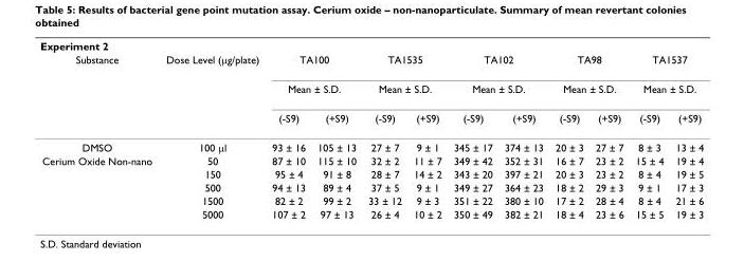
<table><thead><tr><td colspan="12">Experiment 2</td></tr><tr><td rowspan="3">Substance</td><td rowspan="3">Dose Level (μg/plate)</td><td rowspan="2" colspan="2">TA100 Mean ± S.D.</td><td rowspan="2" colspan="2">TA1535 Mean ± S.D.</td><td rowspan="2" colspan="2">TA102 Mean ± S.D.</td><td rowspan="2" colspan="2">TA98 Mean ± S.D.</td><td rowspan="2" colspan="2">TA1537 Mean ± S.D.</td></tr><tr></tr><tr><td>(-S9)</td><td>(+S9)</td><td>(-S9)</td><td>(+S9)</td><td>(-S9)</td><td>(+S9)</td><td>(-S9)</td><td>(+S9)</td><td>(-S9)</td><td>(+S9)</td></tr></thead><tbody><tr><td>DMSO</td><td>100 μl</td><td>93 ± 16</td><td>105 ± 13</td><td>27 ± 7</td><td>9 ± 1</td><td>345 ± 17</td><td>374 ± 13</td><td>20 ± 3</td><td>27 ± 7</td><td>8 ± 3</td><td>13 ± 4</td></tr><tr><td rowspan="5">Cerium Oxide Non-nano</td><td>50</td><td>87 ± 10</td><td>115 ± 10</td><td>32 ± 2</td><td>11 ± 7</td><td>349 ± 42</td><td>352 ± 31</td><td>16 ± 7</td><td>23 ± 2</td><td>15 ± 4</td><td>19 ± 4</td></tr><tr><td>150</td><td>95 ± 4</td><td>91 ± 8</td><td>28 ± 7</td><td>14 ± 2</td><td>343 ± 20</td><td>397 ± 21</td><td>20 ± 3</td><td>23 ± 2</td><td>8 ± 4</td><td>19 ± 5</td></tr><tr><td>500</td><td>94 ± 13</td><td>89 ± 4</td><td>37 ± 5</td><td>9 ± 1</td><td>349 ± 27</td><td>364 ± 23</td><td>18 ± 2</td><td>29 ± 3</td><td>9 ± 1</td><td>17 ± 3</td></tr><tr><td>1500</td><td>82 ± 2</td><td>99 ± 2</td><td>33 ± 12</td><td>9 ± 3</td><td>351 ± 22</td><td>380 ± 10</td><td>17 ± 2</td><td>28 ± 4</td><td>8 ± 4</td><td>21 ± 6</td></tr><tr><td>5000</td><td>107 ± 2</td><td>97 ± 13</td><td>26 ± 4</td><td>10 ± 2</td><td>350 ± 49</td><td>382 ± 21</td><td>18 ± 4</td><td>23 ± 6</td><td>15 ± 5</td><td>19 ± 3</td></tr></tbody></table>